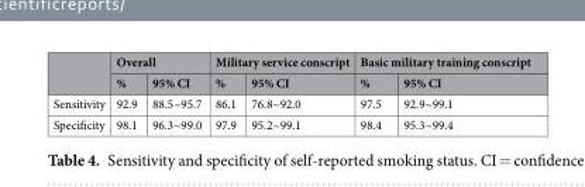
<table><thead><tr><td rowspan="2"></td><td colspan="2">Overall</td><td colspan="2">Military service conscript</td><td colspan="2">Basic military training conscript</td></tr><tr><td>%</td><td>95% CI</td><td>%</td><td>95% CI</td><td>%</td><td>95% CI</td></tr></thead><tbody><tr><td>Sensitivity</td><td>92.9</td><td>88.5~95.7</td><td>86.1</td><td>76.8~92.0</td><td>97.5</td><td>92.9~99.1</td></tr><tr><td>Specificity</td><td>98.1</td><td>96.3~99.0</td><td>97.9</td><td>95.2~99.1</td><td>98.4</td><td>95.3~99.4</td></tr></tbody></table>